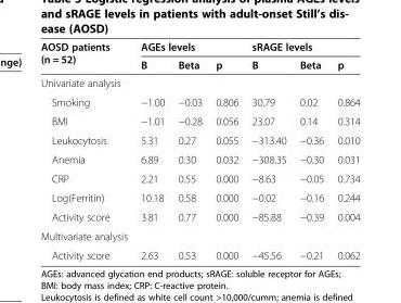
<table><thead><tr><td rowspan="2">AOSD patients (n = 52)</td><td colspan="3">AGEs levels</td><td colspan="3">sRAGE levels</td></tr><tr><td>B</td><td>Beta</td><td>p</td><td>B</td><td>Beta</td><td>p</td></tr></thead><tbody><tr><td colspan="7">Univariate analysis</td></tr><tr><td>Smoking</td><td>−1.00</td><td>−0.03</td><td>0.806</td><td>30.79</td><td>0.02</td><td>0.864</td></tr><tr><td>BMI</td><td>−1.01</td><td>−0.28</td><td>0.056</td><td>23.07</td><td>0.14</td><td>0.314</td></tr><tr><td>Leukocytosis</td><td>5.31</td><td>0.27</td><td>0.055</td><td>−313.40</td><td>−0.36</td><td>0.010</td></tr><tr><td>Anemia</td><td>6.89</td><td>0.30</td><td>0.032</td><td>−308.35</td><td>−0.30</td><td>0.031</td></tr><tr><td>CRP</td><td>2.21</td><td>0.55</td><td>0.000</td><td>−8.63</td><td>−0.05</td><td>0.734</td></tr><tr><td>Log(Ferritin)</td><td>10.18</td><td>0.58</td><td>0.000</td><td>−0.02</td><td>−0.16</td><td>0.244</td></tr><tr><td>Activity score</td><td>3.81</td><td>0.77</td><td>0.000</td><td>−85.88</td><td>−0.39</td><td>0.004</td></tr><tr><td colspan="7">Multivariate analysis</td></tr><tr><td>Activity score</td><td>2.63</td><td>0.53</td><td>0.000</td><td>−45.56</td><td>−0.21</td><td>0.062</td></tr></tbody></table>